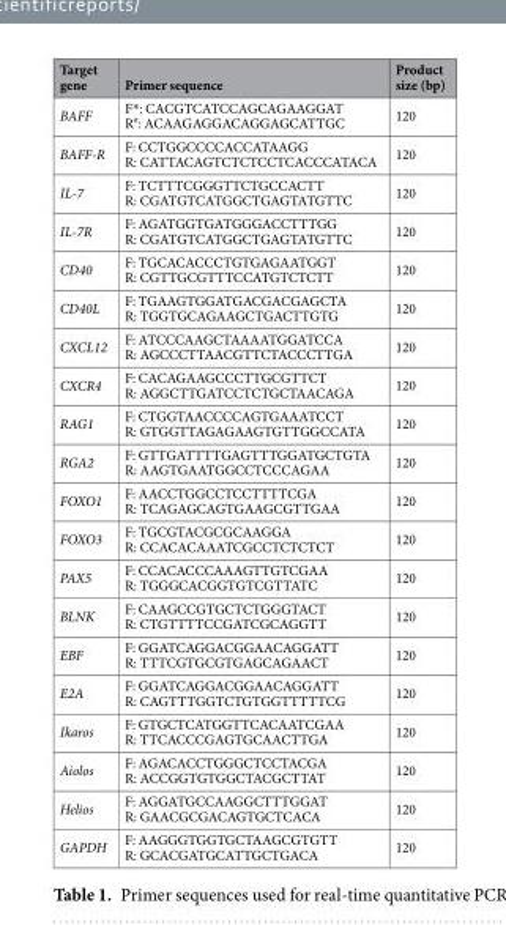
<table><thead><tr><td>Target gene</td><td>Primer sequence</td><td>Product size (bp)</td></tr></thead><tbody><tr><td>BAFF</td><td>F*: CACGTCATCCAGCAGAAGGAT R<sup>#</sup>: ACAAGAGGACAGGAGCATTGC</td><td>120</td></tr><tr><td>BAFF-R</td><td>F: CCTGGCCCCACCATAAGG R: CATTACAGTCTCTCCTCACCCATACA</td><td>120</td></tr><tr><td>IL-7</td><td>F: TCTTTCGGGTTCTGCCACTT R: CGATGTCATGGCTGAGTATGTTC</td><td>120</td></tr><tr><td>IL-7R</td><td>F: AGATGGTGATGGGACCTTTGG R: CGATGTCATGGCTGAGTATGTTC</td><td>120</td></tr><tr><td>CD40</td><td>F: TGCACACCCTGTGAGAATGGT R: CGTTGCGTTTCCATGTCTCTT</td><td>120</td></tr><tr><td>CD40L</td><td>F: TGAAGTGGATGACGACGAGCTA R: TGGTGCAGAAGCTGACTTGTG</td><td>120</td></tr><tr><td>CXCL12</td><td>F: ATCCCAAGCTAAAATGGATCCA R: AGCCCTTAACGTTCTACCCTTGA</td><td>120</td></tr><tr><td>CXCR4</td><td>F: CACAGAAGCCCTTGCGTTCT R: AGGCTTGATCCTCTGCTAACAGA</td><td>120</td></tr><tr><td>RAG1</td><td>F: CTGGTAACCCCAGTGAAATCCT R: GTGGTTAGAGAAGTGTTGGCCATA</td><td>120</td></tr><tr><td>RGA2</td><td>F: GTTGATTTTGAGTTTGGATGCTGTA R: AAGTGAATGGCCTCCCAGAA</td><td>120</td></tr><tr><td>FOXO1</td><td>F: AACCTGGCCTCCTTTTCGA R: TCAGAGCAGTGAAGCGTTGAA</td><td>120</td></tr><tr><td>FOXO3</td><td>F: TGCGTACGCGCAAGGA R: CCACACAAATCGCCTCTCTCT</td><td>120</td></tr><tr><td>PAX5</td><td>F: CCACACCCAAAGTTGTCGAA R: TGGGCACGGTGTCGTTATC</td><td>120</td></tr><tr><td>BLNK</td><td>F: CAAGCCGTGCTCTGGGTACT R: CTGTTTTCCGATCGCAGGTT</td><td>120</td></tr><tr><td>EBF</td><td>F: GGATCAGGACGGAACAGGATT R: TTTCGTGCGTGAGCAGAACT</td><td>120</td></tr><tr><td>E2A</td><td>F: GGATCAGGACGGAACAGGATT R: CAGTTTGGTCTGTGGTTTTTCG</td><td>120</td></tr><tr><td>Ikaros</td><td>F: GTGCTCATGGTTCACAATCGAA R: TTCACCCGAGTGCAACTTGA</td><td>120</td></tr><tr><td>Aiolos</td><td>F: AGACACCTGGGCTCCTACGA R: ACCGGTGTGGCTACGCTTAT</td><td>120</td></tr><tr><td>Helios</td><td>F: AGGATGCCAAGGCTTTGGAT R: GAACGCGACAGTGCTCACA</td><td>120</td></tr><tr><td>GAPDH</td><td>F: AAGGGTGGTGCTAAGCGTGTT R: GCACGATGCATTGCTGACA</td><td>120</td></tr></tbody></table>